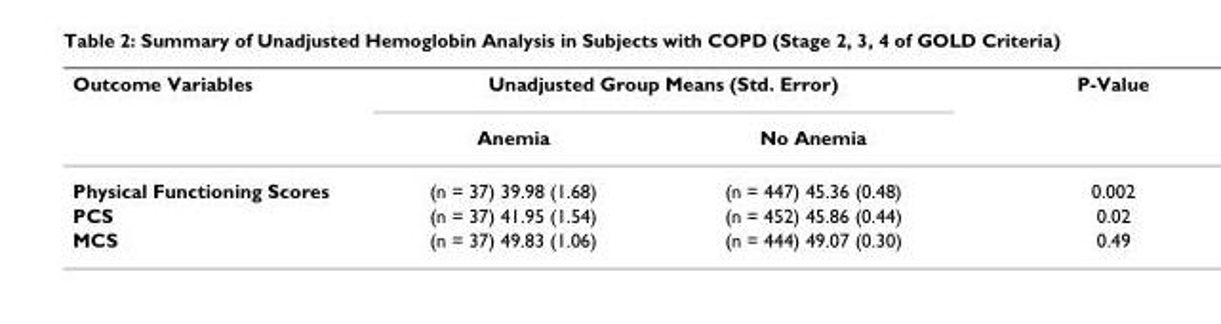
<table><thead><tr><td rowspan="2">Outcome Variables</td><td colspan="2">Unadjusted Group Means (Std. Error)</td><td rowspan="2">P-Value</td></tr><tr><td>Anemia</td><td>No Anemia</td></tr></thead><tbody><tr><td>Physical Functioning Scores</td><td>(n = 37) 39.98 (1.68)</td><td>(n = 447) 45.36 (0.48)</td><td>0.002</td></tr><tr><td>PCS</td><td>(n = 37) 41.95 (1.54)</td><td>(n = 452) 45.86 (0.44)</td><td>0.02</td></tr><tr><td>MCS</td><td>(n = 37) 49.83 (1.06)</td><td>(n = 444) 49.07 (0.30)</td><td>0.49</td></tr></tbody></table>